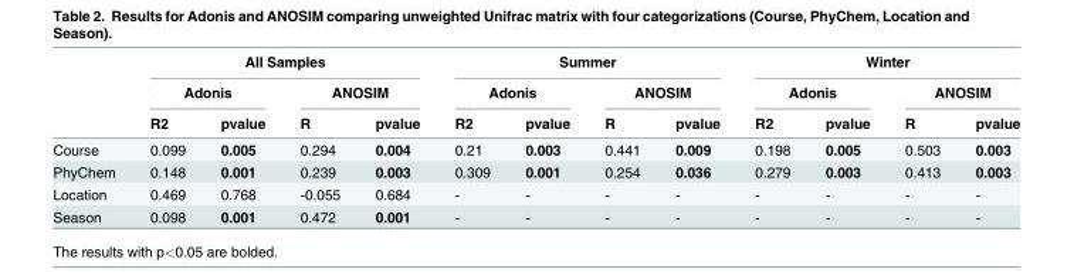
<table><thead><tr><td rowspan="3"></td><td colspan="4">All Samples</td><td colspan="4">Summer</td><td colspan="4">Winter</td></tr><tr><td colspan="2">Adonis</td><td colspan="2">ANOSIM</td><td colspan="2">Adonis</td><td colspan="2">ANOSIM</td><td colspan="2">Adonis</td><td colspan="2">ANOSIM</td></tr><tr><td>R2</td><td>pvalue</td><td>R</td><td>pvalue</td><td>R2</td><td>pvalue</td><td>R</td><td>pvalue</td><td>R2</td><td>pvalue</td><td>R</td><td>pvalue</td></tr></thead><tbody><tr><td>Course</td><td>0.099</td><td>0.005</td><td>0.294</td><td>0.004</td><td>0.21</td><td>0.003</td><td>0.441</td><td>0.009</td><td>0.198</td><td>0.005</td><td>0.503</td><td>0.003</td></tr><tr><td>PhyChem</td><td>0.148</td><td>0.001</td><td>0.239</td><td>0.003</td><td>0.309</td><td>0.001</td><td>0.254</td><td>0.036</td><td>0.279</td><td>0.003</td><td>0.413</td><td>0.003</td></tr><tr><td>Location</td><td>0.469</td><td>0.768</td><td>-0.055</td><td>0.684</td><td>-</td><td>-</td><td>-</td><td>-</td><td>-</td><td>-</td><td>-</td><td>-</td></tr><tr><td>Season</td><td>0.098</td><td>0.001</td><td>0.472</td><td>0.001</td><td>-</td><td>-</td><td>-</td><td>-</td><td>-</td><td>-</td><td>-</td><td>-</td></tr></tbody></table>